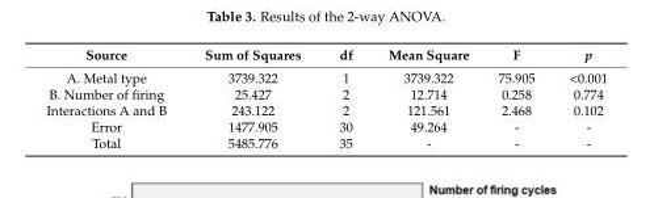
<table><thead><tr><td>Source</td><td>Sum of Squares</td><td>df</td><td>Mean Square</td><td>F</td><td>p</td></tr></thead><tbody><tr><td>A. Metal type</td><td>3739.322</td><td>1</td><td>3739.322</td><td>75.905</td><td>&lt;0.001</td></tr><tr><td>B. Number of firing</td><td>25.427</td><td>2</td><td>12.714</td><td>0.258</td><td>0.774</td></tr><tr><td>Interactions A and B</td><td>243.122</td><td>2</td><td>121.561</td><td>2.468</td><td>0.102</td></tr><tr><td>Error</td><td>1477.905</td><td>30</td><td>49.264</td><td>-</td><td>-</td></tr><tr><td>Total</td><td>5485.776</td><td>35</td><td>-</td><td>-</td><td>-</td></tr></tbody></table>